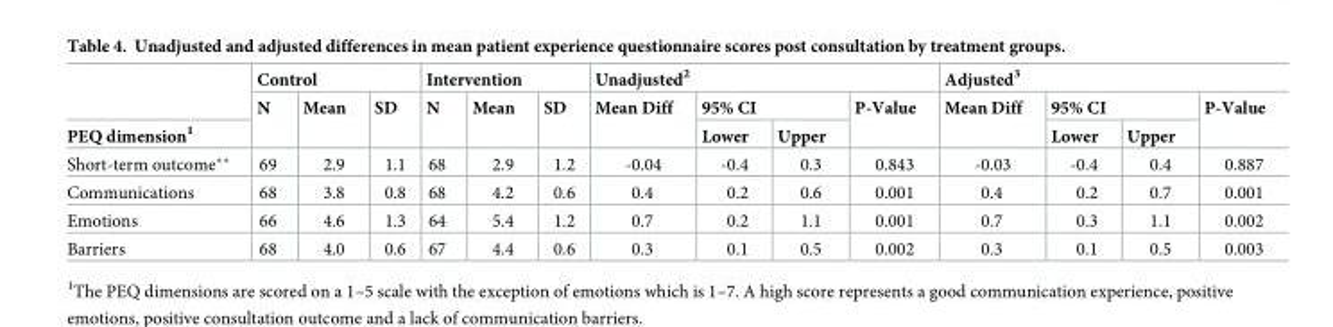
<table><thead><tr><td rowspan="3">PEQ dimension<sup>1</sup></td><td colspan="3">Control</td><td colspan="3">Intervention</td><td colspan="4">Unadjusted<sup>2</sup></td><td colspan="4">Adjusted<sup>3</sup></td></tr><tr><td rowspan="2">N</td><td rowspan="2">Mean</td><td rowspan="2">SD</td><td rowspan="2">N</td><td rowspan="2">Mean</td><td rowspan="2">SD</td><td rowspan="2">Mean Diff</td><td colspan="2">95% CI</td><td rowspan="2">P-Value</td><td rowspan="2">Mean Diff</td><td colspan="2">95% CI</td><td rowspan="2">P-Value</td></tr><tr><td>Lower</td><td>Upper</td><td>Lower</td><td>Upper</td></tr></thead><tbody><tr><td>Short-term outcome**</td><td>69</td><td>2.9</td><td>1.1</td><td>68</td><td>2.9</td><td>1.2</td><td>-0.04</td><td>-0.4</td><td>0.3</td><td>0.843</td><td>-0.03</td><td>-0.4</td><td>0.4</td><td>0.887</td></tr><tr><td>Communications</td><td>68</td><td>3.8</td><td>0.8</td><td>68</td><td>4.2</td><td>0.6</td><td>0.4</td><td>0.2</td><td>0.6</td><td>0.001</td><td>0.4</td><td>0.2</td><td>0.7</td><td>0.001</td></tr><tr><td>Emotions</td><td>66</td><td>4.6</td><td>1.3</td><td>64</td><td>5.4</td><td>1.2</td><td>0.7</td><td>0.2</td><td>1.1</td><td>0.001</td><td>0.7</td><td>0.3</td><td>1.1</td><td>0.002</td></tr><tr><td>Barriers</td><td>68</td><td>4.0</td><td>0.6</td><td>67</td><td>4.4</td><td>0.6</td><td>0.3</td><td>0.1</td><td>0.5</td><td>0.002</td><td>0.3</td><td>0.1</td><td>0.5</td><td>0.003</td></tr></tbody></table>